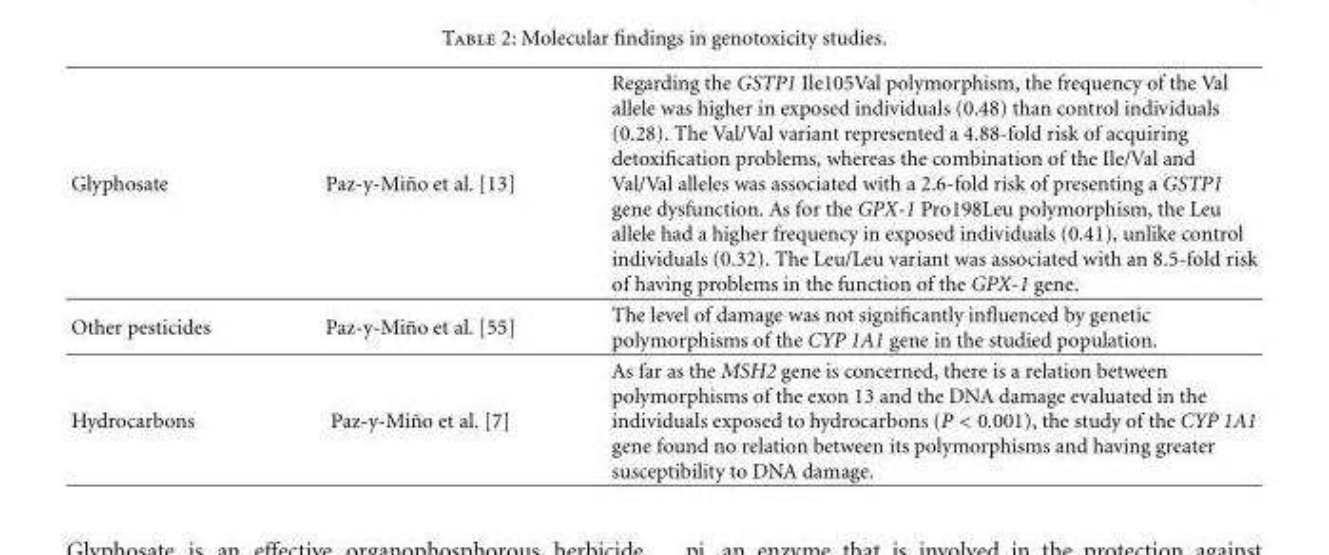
<table><tbody><tr><td>Glyphosate</td><td>Paz-y-Mi˜no et al. [13]</td><td>Regarding the GSTP1 Ile105Val polymorphism, the frequency of the Val allele was higher in exposed individuals (0.48) than control individuals (0.28). The Val/Val variant represented a 4.88-fold risk of acquiring detoxification problems, whereas the combination of the Ile/Val and Val/Val alleles was associated with a 2.6-fold risk of presenting a GSTP1 gene dysfunction. As for the GPX-1 Pro198Leu polymorphism, the Leu allele had a higher frequency in exposed individuals (0.41), unlike control individuals (0.32). The Leu/Leu variant was associated with an 8.5-fold risk of having problems in the function of the GPX-1 gene.</td></tr><tr><td>Other pesticides</td><td>Paz-y-Mi˜no et al. [55]</td><td>The level of damage was not significantly influenced by genetic polymorphisms of the CYP 1A1 gene in the studied population.</td></tr><tr><td>Hydrocarbons</td><td>Paz-y-Mi˜no et al. [7]</td><td>As far as the MSH2 gene is concerned, there is a relation between polymorphisms of the exon 13 and the DNA damage evaluated in the individuals exposed to hydrocarbons (P &lt; 0.001), the study of the CYP 1A1 gene found no relation between its polymorphisms and having greater susceptibility to DNA damage.</td></tr></tbody></table>